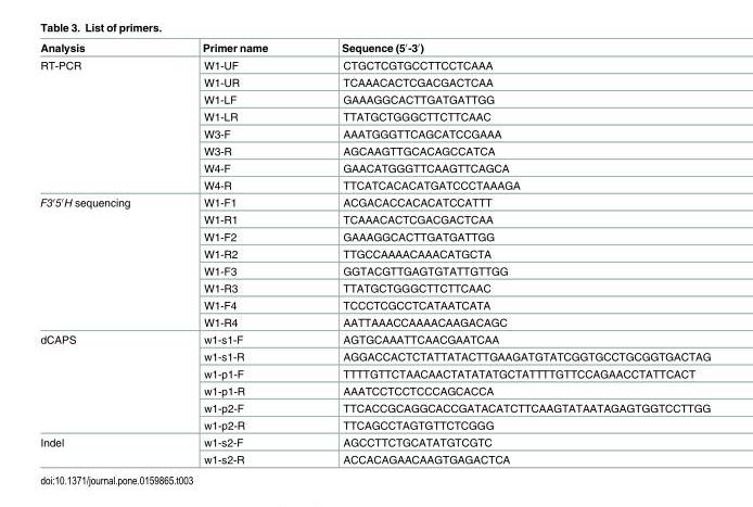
<table><thead><tr><td>Analysis</td><td>Primer name</td><td>Sequence (5′-3′)</td></tr></thead><tbody><tr><td rowspan="8">RT-PCR</td><td>W1-UF</td><td>CTGCTCGTGCCTTCCTCAAA</td></tr><tr><td>W1-UR</td><td>TCAAACACTCGACGACTCAA</td></tr><tr><td>W1-LF</td><td>GAAAGGCACTTGATGATTGG</td></tr><tr><td>W1-LR</td><td>TTATGCTGGGCTTCTTCAAC</td></tr><tr><td>W3-F</td><td>AAATGGGTTCAGCATCCGAAA</td></tr><tr><td>W3-R</td><td>AGCAAGTTGCACAGCCATCA</td></tr><tr><td>W4-F</td><td>GAACATGGGTTCAAGTTCAGCA</td></tr><tr><td>W4-R</td><td>TTCATCACACATGATCCCTAAAGA</td></tr><tr><td rowspan="8">F3′5′H sequencing</td><td>W1-F1</td><td>ACGACACCACACATCCATTT</td></tr><tr><td>W1-R1</td><td>TCAAACACTCGACGACTCAA</td></tr><tr><td>W1-F2</td><td>GAAAGGCACTTGATGATTGG</td></tr><tr><td>W1-R2</td><td>TTGCCAAAACAAACATGCTA</td></tr><tr><td>W1-F3</td><td>GGTACGTTGAGTGTATTGTTGG</td></tr><tr><td>W1-R3</td><td>TTATGCTGGGCTTCTTCAAC</td></tr><tr><td>W1-F4</td><td>TCCCTCGCCTCATAATCATA</td></tr><tr><td>W1-R4</td><td>AATTAAACCAAAACAAGACAGC</td></tr><tr><td rowspan="6">dCAPS</td><td>w1-s1-F</td><td>AGTGCAAATTCAACGAATCAA</td></tr><tr><td>w1-s1-R</td><td>AGGACCACTCTATTATACTTGAAGATGTATCGGTGCCTGCGGTGACTAG</td></tr><tr><td>w1-p1-F</td><td>TTTTGTTCTAACAACTATATATGCTATTTTGTTCCAGAACCTATTCACT</td></tr><tr><td>w1-p1-R</td><td>AAATCCTCCTCCCAGCACCA</td></tr><tr><td>w1-p2-F</td><td>TTCACCGCAGGCACCGATACATCTTCAAGTATAATAGAGTGGTCCTTGG</td></tr><tr><td>w1-p2-R</td><td>TTCAGCCTAGTGTTCTCGGG</td></tr><tr><td rowspan="2">Indel</td><td>w1-s2-F</td><td>AGCCTTCTGCATATGTCGTC</td></tr><tr><td>w1-s2-R</td><td>ACCACAGAACAAGTGAGACTCA</td></tr></tbody></table>